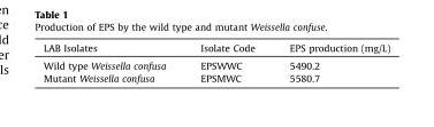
<table><thead><tr><td>LAB Isolates</td><td>Isolate Code</td><td>EPS production (mg/L)</td></tr></thead><tbody><tr><td>Wild type Weissella confusa</td><td>EPSWWC</td><td>5490.2</td></tr><tr><td>Mutant Weissella confusa</td><td>EPSMWC</td><td>5580.7</td></tr></tbody></table>